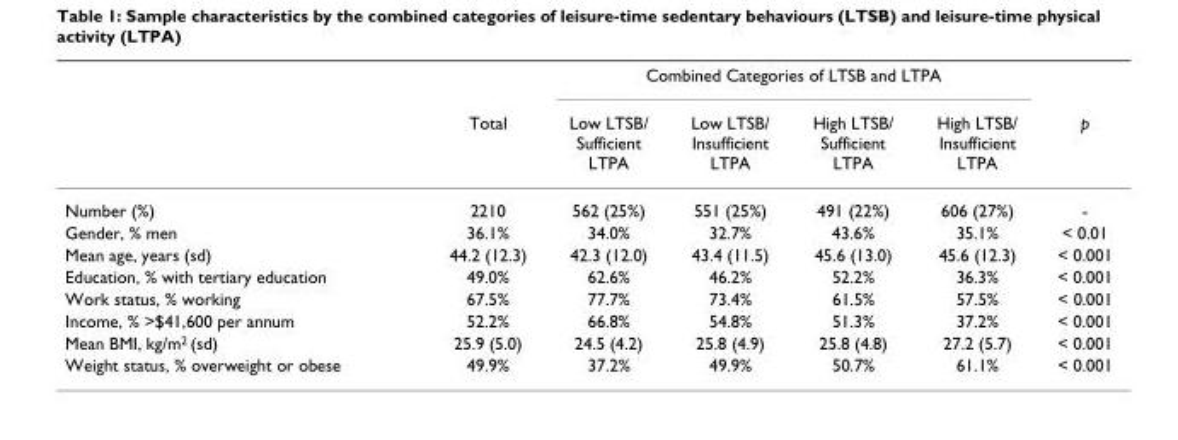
<table><thead><tr><td rowspan="2"></td><td rowspan="2">Total</td><td colspan="4">Combined Categories of LTSB and LTPA</td><td rowspan="2">p</td></tr><tr><td>Low LTSB/ Sufficient LTPA</td><td>Low LTSB/ Insufficient LTPA</td><td>High LTSB/ Sufficient LTPA</td><td>High LTSB/ Insufficient LTPA</td></tr></thead><tbody><tr><td>Number (%)</td><td>2210</td><td>562 (25%)</td><td>551 (25%)</td><td>491 (22%)</td><td>606 (27%)</td><td>-</td></tr><tr><td>Gender, % men</td><td>36.1%</td><td>34.0%</td><td>32.7%</td><td>43.6%</td><td>35.1%</td><td>&lt; 0.01</td></tr><tr><td>Mean age, years (sd)</td><td>44.2 (12.3)</td><td>42.3 (12.0)</td><td>43.4 (11.5)</td><td>45.6 (13.0)</td><td>45.6 (12.3)</td><td>&lt; 0.001</td></tr><tr><td>Education, % with tertiary education</td><td>49.0%</td><td>62.6%</td><td>46.2%</td><td>52.2%</td><td>36.3%</td><td>&lt; 0.001</td></tr><tr><td>Work status, % working</td><td>67.5%</td><td>77.7%</td><td>73.4%</td><td>61.5%</td><td>57.5%</td><td>&lt; 0.001</td></tr><tr><td>Income, % &gt;$41,600 per annum</td><td>52.2%</td><td>66.8%</td><td>54.8%</td><td>51.3%</td><td>37.2%</td><td>&lt; 0.001</td></tr><tr><td>Mean BMI, kg/m<sup>2</sup> (sd)</td><td>25.9 (5.0)</td><td>24.5 (4.2)</td><td>25.8 (4.9)</td><td>25.8 (4.8)</td><td>27.2 (5.7)</td><td>&lt; 0.001</td></tr><tr><td>Weight status, % overweight or obese</td><td>49.9%</td><td>37.2%</td><td>49.9%</td><td>50.7%</td><td>61.1%</td><td>&lt; 0.001</td></tr></tbody></table>